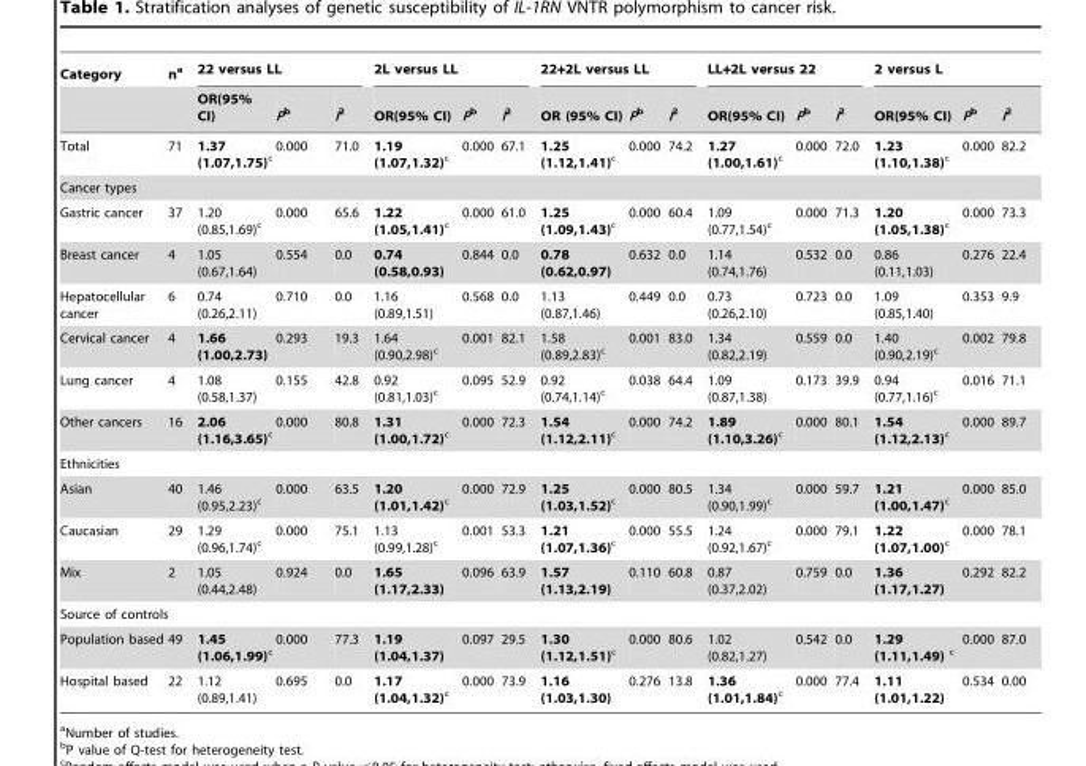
<table><thead><tr><td rowspan="2">Category</td><td rowspan="2">n<sup>a</sup></td><td colspan="3">22 versus LL</td><td colspan="3">2L versus LL</td><td colspan="3">22+2L versus LL</td><td colspan="3">LL+2L versus 22</td><td colspan="3">2 versus L</td></tr><tr><td>OR(95% CI)</td><td>Pb</td><td>I<sup>2</sup></td><td>OR(95% CI)</td><td>Pb</td><td>I<sup>2</sup></td><td>OR (95% CI)</td><td>Pb</td><td>I<sup>2</sup></td><td>OR(95% CI)</td><td>Pb</td><td>I<sup>2</sup></td><td>OR(95% CI)</td><td>Pb</td><td>I<sup>2</sup></td></tr></thead><tbody><tr><td>Total</td><td>71</td><td>1.37 (1.07,1.75)c</td><td>0.000</td><td>71.0</td><td>1.19 (1.07,1.32)c</td><td>0.000</td><td>67.1</td><td>1.25 (1.12,1.41)c</td><td>0.000</td><td>74.2</td><td>1.27 (1.00,1.61)c</td><td>0.000</td><td>72.0</td><td>1.23 (1.10,1.38)c</td><td>0.000</td><td>82.2</td></tr><tr><td colspan="17">Cancer types</td></tr><tr><td>Gastric cancer</td><td>37</td><td>1.20 (0.85,1.69)<sup>c</sup></td><td>0.000</td><td>65.6</td><td>1.22 (1.05,1.41)c</td><td>0.000</td><td>61.0</td><td>1.25 (1.09,1.43)c</td><td>0.000</td><td>60.4</td><td>1.09 (0.77,1.54)<sup>c</sup></td><td>0.000</td><td>71.3</td><td>1.20 (1.05,1.38)c</td><td>0.000</td><td>73.3</td></tr><tr><td>Breast cancer</td><td>4</td><td>1.05 (0.67,1.64)</td><td>0.554</td><td>0.0</td><td>0.74 (0.58,0.93)</td><td>0.844</td><td>0.0</td><td>0.78 (0.62,0.97)</td><td>0.632</td><td>0.0</td><td>1.14 (0.74,1.76)</td><td>0.532</td><td>0.0</td><td>0.86 (0.11,1.03)</td><td>0.276</td><td>22.4</td></tr><tr><td>Hepatocellular cancer</td><td>6</td><td>0.74 (0.26,2.11)</td><td>0.710</td><td>0.0</td><td>1.16 (0.89,1.51)</td><td>0.568</td><td>0.0</td><td>1.13 (0.87,1.46)</td><td>0.449</td><td>0.0</td><td>0.73 (0.26,2.10)</td><td>0.723</td><td>0.0</td><td>1.09 (0.85,1.40)</td><td>0.353</td><td>9.9</td></tr><tr><td>Cervical cancer</td><td>4</td><td>1.66 (1.00,2.73)</td><td>0.293</td><td>19.3</td><td>1.64 (0.90,2.98)<sup>c</sup></td><td>0.001</td><td>82.1</td><td>1.58 (0.89,2.83)<sup>c</sup></td><td>0.001</td><td>83.0</td><td>1.34 (0.82,2.19)</td><td>0.559</td><td>0.0</td><td>1.40 (0.90,2.19)<sup>c</sup></td><td>0.002</td><td>79.8</td></tr><tr><td>Lung cancer</td><td>4</td><td>1.08 (0.58,1.37)</td><td>0.155</td><td>42.8</td><td>0.92 (0.81,1.03)<sup>c</sup></td><td>0.095</td><td>52.9</td><td>0.92 (0.74,1.14)<sup>c</sup></td><td>0.038</td><td>64.4</td><td>1.09 (0.87,1.38)</td><td>0.173</td><td>39.9</td><td>0.94 (0.77,1.16)<sup>c</sup></td><td>0.016</td><td>71.1</td></tr><tr><td>Other cancers</td><td>16</td><td>2.06 (1.16,3.65)c</td><td>0.000</td><td>80.8</td><td>1.31 (1.00,1.72)c</td><td>0.000</td><td>72.3</td><td>1.54 (1.12,2.11)c</td><td>0.000</td><td>74.2</td><td>1.89 (1.10,3.26)c</td><td>0.000</td><td>80.1</td><td>1.54 (1.12,2.13)c</td><td>0.000</td><td>89.7</td></tr><tr><td colspan="17">Ethnicities</td></tr><tr><td>Asian</td><td>40</td><td>1.46 (0.95,2.23)<sup>c</sup></td><td>0.000</td><td>63.5</td><td>1.20 (1.01,1.42)c</td><td>0.000</td><td>72.9</td><td>1.25 (1.03,1.52)c</td><td>0.000</td><td>80.5</td><td>1.34 (0.90,1.99)<sup>c</sup></td><td>0.000</td><td>59.7</td><td>1.21 (1.00,1.47)c</td><td>0.000</td><td>85.0</td></tr><tr><td>Caucasian</td><td>29</td><td>1.29 (0.96,1.74)<sup>c</sup></td><td>0.000</td><td>75.1</td><td>1.13 (0.99,1.28)<sup>c</sup></td><td>0.001</td><td>53.3</td><td>1.21 (1.07,1.36)c</td><td>0.000</td><td>55.5</td><td>1.24 (0.92,1.67)<sup>c</sup></td><td>0.000</td><td>79.1</td><td>1.22 (1.07,1.00)c</td><td>0.000</td><td>78.1</td></tr><tr><td>Mix</td><td>2</td><td>1.05 (0.44,2.48)</td><td>0.924</td><td>0.0</td><td>1.65 (1.17,2.33)</td><td>0.096</td><td>63.9</td><td>1.57 (1.13,2.19)</td><td>0.110</td><td>60.8</td><td>0.87 (0.37,2.02)</td><td>0.759</td><td>0.0</td><td>1.36 (1.17,1.27)</td><td>0.292</td><td>82.2</td></tr><tr><td colspan="17">Source of controls</td></tr><tr><td>Population based</td><td>49</td><td>1.45 (1.06,1.99)c</td><td>0.000</td><td>77.3</td><td>1.19 (1.04,1.37)</td><td>0.097</td><td>29.5</td><td>1.30 (1.12,1.51)c</td><td>0.000</td><td>80.6</td><td>1.02 (0.82,1.27)</td><td>0.542</td><td>0.0</td><td>1.29 (1.11,1.49) c</td><td>0.000</td><td>87.0</td></tr><tr><td>Hospital based</td><td>22</td><td>1.12 (0.89,1.41)</td><td>0.695</td><td>0.0</td><td>1.17 (1.04,1.32)c</td><td>0.000</td><td>73.9</td><td>1.16 (1.03,1.30)</td><td>0.276</td><td>13.8</td><td>1.36 (1.01,1.84)c</td><td>0.000</td><td>77.4</td><td>1.11 (1.01,1.22)</td><td>0.534</td><td>0.00</td></tr></tbody></table>